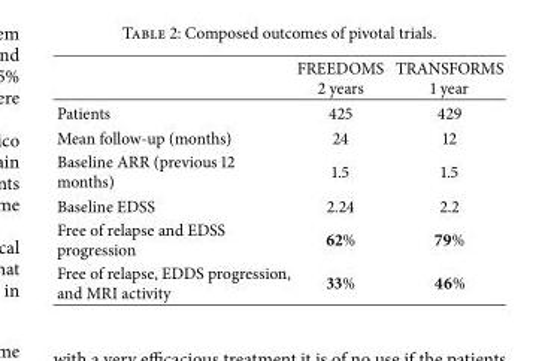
<table><thead><tr><td></td><td>FREEDOMS 2 years</td><td>TRANSFORMS 1 year</td></tr></thead><tbody><tr><td>Patients</td><td>425</td><td>429</td></tr><tr><td>Mean follow-up (months)</td><td>24</td><td>12</td></tr><tr><td>Baseline ARR (previous 12 months)</td><td>1.5</td><td>1.5</td></tr><tr><td>Baseline EDSS</td><td>2.24</td><td>2.2</td></tr><tr><td>Free of relapse and EDSS progression</td><td>62%</td><td>79%</td></tr><tr><td>Free of relapse, EDDS progression, and MRI activity</td><td>33%</td><td>46%</td></tr></tbody></table>